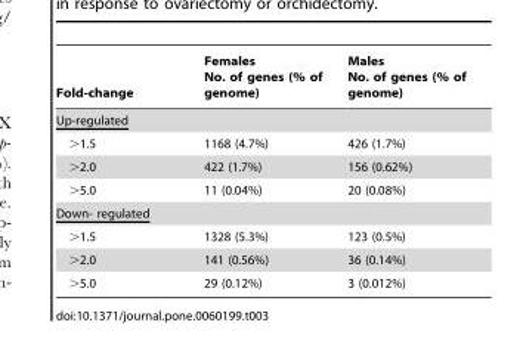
<table><thead><tr><td>Fold-change</td><td>Females No. of genes (% of genome)</td><td>Males No. of genes (% of genome)</td></tr></thead><tbody><tr><td colspan="3">Up-regulated</td></tr><tr><td>&gt;1.5</td><td>1168 (4.7%)</td><td>426 (1.7%)</td></tr><tr><td>&gt;2.0</td><td>422 (1.7%)</td><td>156 (0.62%)</td></tr><tr><td>&gt;5.0</td><td>11 (0.04%)</td><td>20 (0.08%)</td></tr><tr><td colspan="3">Down- regulated</td></tr><tr><td>&gt;1.5</td><td>1328 (5.3%)</td><td>123 (0.5%)</td></tr><tr><td>&gt;2.0</td><td>141 (0.56%)</td><td>36 (0.14%)</td></tr><tr><td>&gt;5.0</td><td>29 (0.12%)</td><td>3 (0.012%)</td></tr></tbody></table>